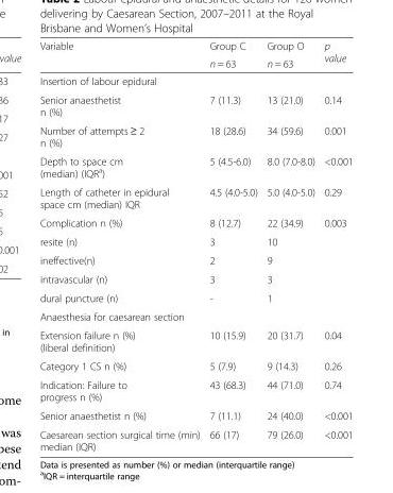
<table><thead><tr><td rowspan="2">Variable</td><td rowspan="2">Group C n = 63</td><td rowspan="2">Group O n = 63</td><td rowspan="2">p value</td></tr><tr></tr></thead><tbody><tr><td colspan="4">Insertion of labour epidural</td></tr><tr><td>Senior anaesthetist n (%)</td><td>7 (11.3)</td><td>13 (21.0)</td><td>0.14</td></tr><tr><td>Number of attempts ≥ 2 n (%)</td><td>18 (28.6)</td><td>34 (59.6)</td><td>0.001</td></tr><tr><td>Depth to space cm (median) (IQR<sup>a</sup>)</td><td>5 (4.5-6.0)</td><td>8.0 (7.0-8.0)</td><td>&lt;0.001</td></tr><tr><td>Length of catheter in epidural space cm (median) IQR</td><td>4.5 (4.0-5.0)</td><td>5.0 (4.0-5.0)</td><td>0.29</td></tr><tr><td>Complication n (%)</td><td>8 (12.7)</td><td>22 (34.9)</td><td>0.003</td></tr><tr><td>resite (n)</td><td>3</td><td>10</td><td></td></tr><tr><td>ineffective(n)</td><td>2</td><td>9</td><td></td></tr><tr><td>intravascular (n)</td><td>3</td><td>3</td><td></td></tr><tr><td>dural puncture (n)</td><td>-</td><td>1</td><td></td></tr><tr><td colspan="4">Anaesthesia for caesarean section</td></tr><tr><td>Extension failure n (%) (liberal definition)</td><td>10 (15.9)</td><td>20 (31.7)</td><td>0.04</td></tr><tr><td>Category 1 CS n (%)</td><td>5 (7.9)</td><td>9 (14.3)</td><td>0.26</td></tr><tr><td>Indication: Failure to progress n (%)</td><td>43 (68.3)</td><td>44 (71.0)</td><td>0.74</td></tr><tr><td>Senior anaesthetist n (%)</td><td>7 (11.1)</td><td>24 (40.0)</td><td>&lt;0.001</td></tr><tr><td>Caesarean section surgical time (min) median (IQR)</td><td>66 (17)</td><td>79 (26.0)</td><td>&lt;0.001</td></tr></tbody></table>